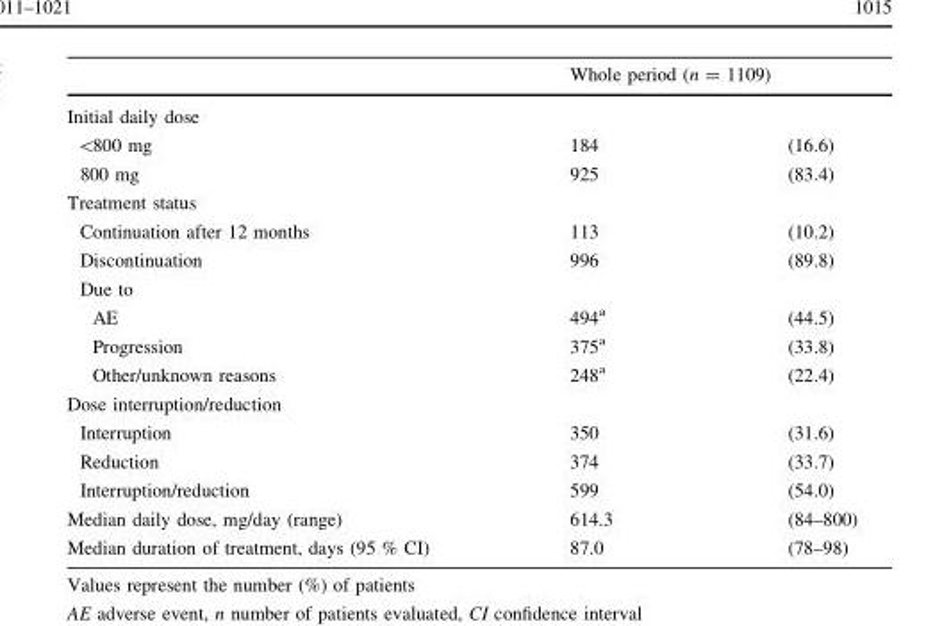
<table><thead><tr><td></td><td colspan="2">Whole period (n = 1109)</td></tr><tr><td colspan="3">Initial daily dose</td></tr><tr><td>&lt;800 mg</td><td>184</td><td>(16.6)</td></tr></thead><tbody><tr><td>800 mg</td><td>925</td><td>(83.4)</td></tr><tr><td colspan="3">Treatment status</td></tr><tr><td>Continuation after 12 months</td><td>113</td><td>(10.2)</td></tr><tr><td>Discontinuation</td><td>996</td><td>(89.8)</td></tr><tr><td colspan="3">Due to</td></tr><tr><td>AE</td><td>494<sup>a</sup></td><td>(44.5)</td></tr><tr><td>Progression</td><td>375<sup>a</sup></td><td>(33.8)</td></tr><tr><td>Other/unknown reasons</td><td>248<sup>a</sup></td><td>(22.4)</td></tr><tr><td colspan="3">Dose interruption/reduction</td></tr><tr><td>Interruption</td><td>350</td><td>(31.6)</td></tr><tr><td>Reduction</td><td>374</td><td>(33.7)</td></tr><tr><td>Interruption/reduction</td><td>599</td><td>(54.0)</td></tr><tr><td>Median daily dose, mg/day (range)</td><td>614.3</td><td>(84–800)</td></tr><tr><td>Median duration of treatment, days (95 % CI)</td><td>87.0</td><td>(78–98)</td></tr></tbody></table>